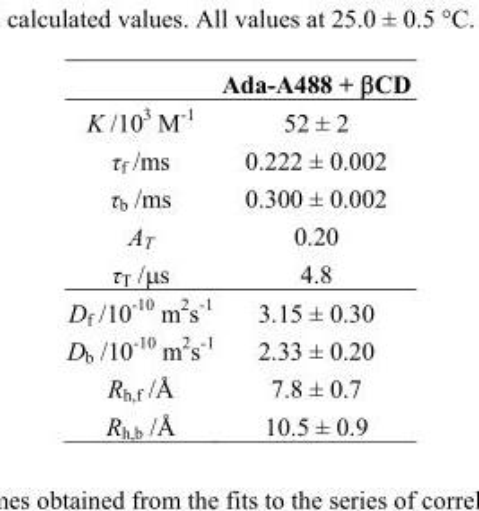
<table><thead><tr><td></td><td>Ada-A488 + βCD</td></tr></thead><tbody><tr><td>K /10<sup>3</sup> M<sup>-1</sup></td><td>52 ± 2</td></tr><tr><td>τ<sub>f</sub> /ms</td><td>0.222 ± 0.002</td></tr><tr><td>τ<sub>b</sub> /ms</td><td>0.300 ± 0.002</td></tr><tr><td>A<sub>T</sub></td><td>0.20</td></tr><tr><td>τ<sub>T</sub> /μs</td><td>4.8</td></tr><tr><td>D<sub>f</sub> /10<sup>-10</sup> m<sup>2</sup>s<sup>-1</sup></td><td>3.15 ± 0.30</td></tr><tr><td>D<sub>b</sub> /10<sup>-10</sup> m<sup>2</sup>s<sup>-1</sup></td><td>2.33 ± 0.20</td></tr><tr><td>R<sub>h,f</sub> /Å</td><td>7.8 ± 0.7</td></tr><tr><td>R<sub>h,b</sub> /Å</td><td>10.5 ± 0.9</td></tr></tbody></table>